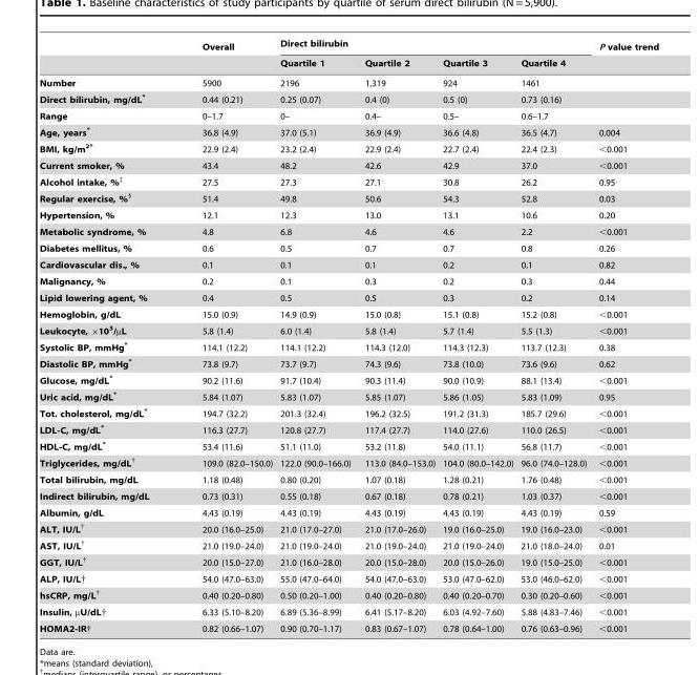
<table><thead><tr><td rowspan="2"></td><td rowspan="2">Overall</td><td colspan="4">Direct bilirubin</td><td rowspan="2">P value trend</td></tr><tr><td>Quartile 1</td><td>Quartile 2</td><td>Quartile 3</td><td>Quartile 4</td></tr></thead><tbody><tr><td>Number</td><td>5900</td><td>2196</td><td>1,319</td><td>924</td><td>1461</td><td></td></tr><tr><td>Direct bilirubin, mg/dL*</td><td>0.44 (0.21)</td><td>0.25 (0.07)</td><td>0.4 (0)</td><td>0.5 (0)</td><td>0.73 (0.16)</td><td></td></tr><tr><td>Range</td><td>0–1.7</td><td>0–</td><td>0.4–</td><td>0.5–</td><td>0.6–1.7</td><td></td></tr><tr><td>Age, years*</td><td>36.8 (4.9)</td><td>37.0 (5.1)</td><td>36.9 (4.9)</td><td>36.6 (4.8)</td><td>36.5 (4.7)</td><td>0.004</td></tr><tr><td>BMI, kg/m<sup>2</sup>*</td><td>22.9 (2.4)</td><td>23.2 (2.4)</td><td>22.9 (2.4)</td><td>22.7 (2.4)</td><td>22.4 (2.3)</td><td>&lt;0.001</td></tr><tr><td>Current smoker, %</td><td>43.4</td><td>48.2</td><td>42.6</td><td>42.9</td><td>37.0</td><td>&lt;0.001</td></tr><tr><td>Alcohol intake, %‡</td><td>27.5</td><td>27.3</td><td>27.1</td><td>30.8</td><td>26.2</td><td>0.95</td></tr><tr><td>Regular exercise, %§</td><td>51.4</td><td>49.8</td><td>50.6</td><td>54.3</td><td>52.8</td><td>0.03</td></tr><tr><td>Hypertension, %</td><td>12.1</td><td>12.3</td><td>13.0</td><td>13.1</td><td>10.6</td><td>0.20</td></tr><tr><td>Metabolic syndrome, %</td><td>4.8</td><td>6.8</td><td>4.6</td><td>4.6</td><td>2.2</td><td>&lt;0.001</td></tr><tr><td>Diabetes mellitus, %</td><td>0.6</td><td>0.5</td><td>0.7</td><td>0.7</td><td>0.8</td><td>0.26</td></tr><tr><td>Cardiovascular dis., %</td><td>0.1</td><td>0.1</td><td>0.1</td><td>0.2</td><td>0.1</td><td>0.82</td></tr><tr><td>Malignancy, %</td><td>0.2</td><td>0.1</td><td>0.3</td><td>0.2</td><td>0.3</td><td>0.44</td></tr><tr><td>Lipid lowering agent, %</td><td>0.4</td><td>0.5</td><td>0.5</td><td>0.3</td><td>0.2</td><td>0.14</td></tr><tr><td>Hemoglobin, g/dL</td><td>15.0 (0.9)</td><td>14.9 (0.9)</td><td>15.0 (0.8)</td><td>15.1 (0.8)</td><td>15.2 (0.8)</td><td>&lt;0.001</td></tr><tr><td>Leukocyte, ×10<sup>3</sup>/µL</td><td>5.8 (1.4)</td><td>6.0 (1.4)</td><td>5.8 (1.4)</td><td>5.7 (1.4)</td><td>5.5 (1.3)</td><td>&lt;0.001</td></tr><tr><td>Systolic BP, mmHg*</td><td>114.1 (12.2)</td><td>114.1 (12.2)</td><td>114.3 (12.0)</td><td>114.3 (12.3)</td><td>113.7 (12.3)</td><td>0.38</td></tr><tr><td>Diastolic BP, mmHg*</td><td>73.8 (9.7)</td><td>73.7 (9.7)</td><td>74.3 (9.6)</td><td>73.8 (10.0)</td><td>73.6 (9.6)</td><td>0.62</td></tr><tr><td>Glucose, mg/dL*</td><td>90.2 (11.6)</td><td>91.7 (10.4)</td><td>90.3 (11.4)</td><td>90.0 (10.9)</td><td>88.1 (13.4)</td><td>&lt;0.001</td></tr><tr><td>Uric acid, mg/dL*</td><td>5.84 (1.07)</td><td>5.83 (1.07)</td><td>5.85 (1.07)</td><td>5.86 (1.05)</td><td>5.83 (1.09)</td><td>0.95</td></tr><tr><td>Tot. cholesterol, mg/dL*</td><td>194.7 (32.2)</td><td>201.3 (32.4)</td><td>196.2 (32.5)</td><td>191.2 (31.3)</td><td>185.7 (29.6)</td><td>&lt;0.001</td></tr><tr><td>LDL-C, mg/dL*</td><td>116.3 (27.7)</td><td>120.8 (27.7)</td><td>117.4 (27.7)</td><td>114.0 (27.6)</td><td>110.0 (26.5)</td><td>&lt;0.001</td></tr><tr><td>HDL-C, mg/dL*</td><td>53.4 (11.6)</td><td>51.1 (11.0)</td><td>53.2 (11.8)</td><td>54.0 (11.1)</td><td>56.8 (11.7)</td><td>&lt;0.001</td></tr><tr><td>Triglycerides, mg/dL†</td><td>109.0 (82.0–150.0)</td><td>122.0 (90.0–166.0)</td><td>113.0 (84.0–153.0)</td><td>104.0 (80.0–142.0)</td><td>96.0 (74.0–128.0)</td><td>&lt;0.001</td></tr><tr><td>Total bilirubin, mg/dL</td><td>1.18 (0.48)</td><td>0.80 (0.20)</td><td>1.07 (0.18)</td><td>1.28 (0.21)</td><td>1.76 (0.48)</td><td>&lt;0.001</td></tr><tr><td>Indirect bilirubin, mg/dL</td><td>0.73 (0.31)</td><td>0.55 (0.18)</td><td>0.67 (0.18)</td><td>0.78 (0.21)</td><td>1.03 (0.37)</td><td>&lt;0.001</td></tr><tr><td>Albumin, g/dL</td><td>4.43 (0.19)</td><td>4.43 (0.19)</td><td>4.43 (0.19)</td><td>4.43 (0.19)</td><td>4.43 (0.19)</td><td>0.59</td></tr><tr><td>ALT, IU/L†</td><td>20.0 (16.0–25.0)</td><td>21.0 (17.0–27.0)</td><td>21.0 (17.0–26.0)</td><td>19.0 (16.0–25.0)</td><td>19.0 (16.0–23.0)</td><td>&lt;0.001</td></tr><tr><td>AST, IU/L†</td><td>21.0 (19.0–24.0)</td><td>21.0 (19.0–24.0)</td><td>21.0 (19.0–24.0)</td><td>21.0 (19.0–24.0)</td><td>21.0 (18.0–24.0)</td><td>0.01</td></tr><tr><td>GGT, IU/L†</td><td>20.0 (15.0–27.0)</td><td>21.0 (16.0–28.0)</td><td>20.0 (15.0–28.0)</td><td>20.0 (15.0–26.0)</td><td>19.0 (15.0–25.0)</td><td>&lt;0.001</td></tr><tr><td>ALP, IU/L†</td><td>54.0 (47.0–63.0)</td><td>55.0 (47.0–64.0)</td><td>54.0 (47.0–63.0)</td><td>53.0 (47.0–62.0)</td><td>53.0 (46.0–62.0)</td><td>&lt;0.001</td></tr><tr><td>hsCRP, mg/L†</td><td>0.40 (0.20–0.80)</td><td>0.50 (0.20–1.00)</td><td>0.40 (0.20–0.80)</td><td>0.40 (0.20–0.70)</td><td>0.30 (0.20–0.60)</td><td>&lt;0.001</td></tr><tr><td>Insulin, µU/dL†</td><td>6.33 (5.10–8.20)</td><td>6.89 (5.36–8.99)</td><td>6.41 (5.17–8.20)</td><td>6.03 (4.92–7.60)</td><td>5.88 (4.83–7.46)</td><td>&lt;0.001</td></tr><tr><td>HOMA2-IR†</td><td>0.82 (0.66–1.07)</td><td>0.90 (0.70–1.17)</td><td>0.83 (0.67–1.07)</td><td>0.78 (0.64–1.00)</td><td>0.76 (0.63–0.96)</td><td>&lt;0.001</td></tr></tbody></table>